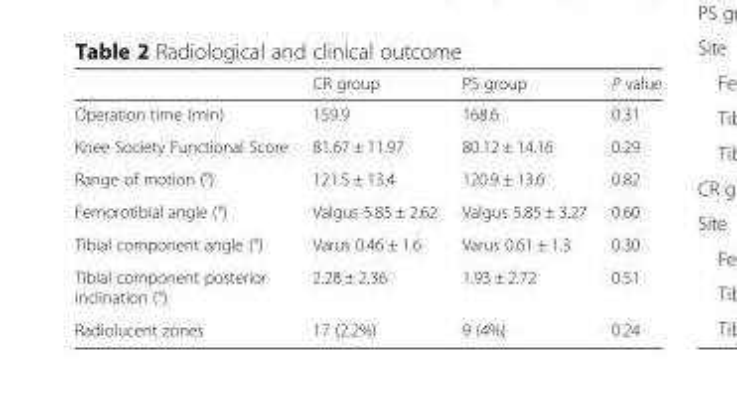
<table><thead><tr><td></td><td>CR group</td><td>PS group</td><td>P value</td></tr></thead><tbody><tr><td>Operation time (min)</td><td>159.9</td><td>168.6</td><td>0.31</td></tr><tr><td>Knee Society Functional Score</td><td>81.67 ± 11.97</td><td>80.12 ± 14.16</td><td>0.29</td></tr><tr><td>Range of motion (°)</td><td>121.5 ± 13.4</td><td>120.9 ± 13.6</td><td>0.82</td></tr><tr><td>Femorotibial angle (°)</td><td>Valgus 5.85 ± 2.62</td><td>Valgus 5.85 ± 3.27</td><td>0.60</td></tr><tr><td>Tibial component angle (°)</td><td>Varus 0.46 ± 1.6</td><td>Varus 0.61 ± 1.3</td><td>0.30</td></tr><tr><td>Tibial component posterior inclination (°)</td><td>2.28 ± 2.36</td><td>1.93 ± 2.72</td><td>0.51</td></tr><tr><td>Radiolucent zones</td><td>17 (2.2%)</td><td>9 (4%)</td><td>0.24</td></tr></tbody></table>